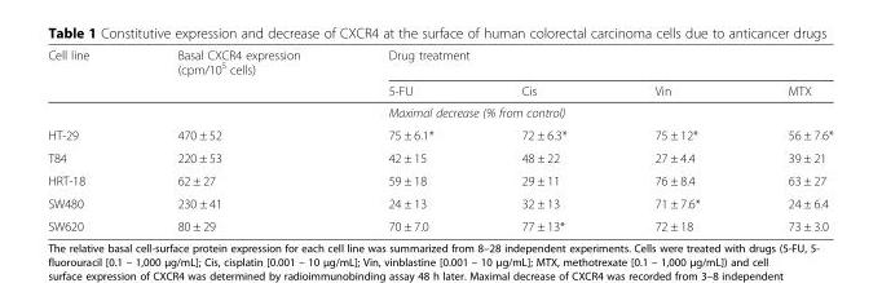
<table><thead><tr><td rowspan="2">Cell line</td><td rowspan="2">Basal CXCR4 expression (cpm/10<sup>5</sup> cells)</td><td colspan="4">Drug treatment</td></tr><tr><td>5-FU</td><td>Cis</td><td>Vin</td><td>MTX</td></tr></thead><tbody><tr><td></td><td></td><td colspan="4">Maximal decrease (% from control)</td></tr><tr><td>HT-29</td><td>470 ± 52</td><td>75 ± 6.1*</td><td>72 ± 6.3*</td><td>75 ± 12*</td><td>56 ± 7.6*</td></tr><tr><td>T84</td><td>220 ± 53</td><td>42 ± 15</td><td>48 ± 22</td><td>27 ± 4.4</td><td>39 ± 21</td></tr><tr><td>HRT-18</td><td>62 ± 27</td><td>59 ± 18</td><td>29 ± 11</td><td>76 ± 8.4</td><td>63 ± 27</td></tr><tr><td>SW480</td><td>230 ± 41</td><td>24 ± 13</td><td>32 ± 13</td><td>71 ± 7.6*</td><td>24 ± 6.4</td></tr><tr><td>SW620</td><td>80 ± 29</td><td>70 ± 7.0</td><td>77 ± 13*</td><td>72 ± 18</td><td>73 ± 3.0</td></tr></tbody></table>